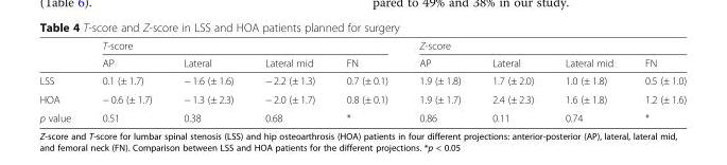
<table><thead><tr><td rowspan="2"></td><td colspan="4">T-score</td><td colspan="4">Z-score</td></tr><tr><td>AP</td><td>Lateral</td><td>Lateral mid</td><td>FN</td><td>AP</td><td>Lateral</td><td>Lateral mid</td><td>FN</td></tr></thead><tbody><tr><td>LSS</td><td>0.1 (± 1.7)</td><td>− 1.6 (± 1.6)</td><td>− 2.2 (± 1.3)</td><td>0.7 (± 0.1)</td><td>1.9 (± 1.8)</td><td>1.7 (± 2.0)</td><td>1.0 (± 1.8)</td><td>0.5 (± 1.0)</td></tr><tr><td>HOA</td><td>− 0.6 (± 1.7)</td><td>− 1.3 (± 2.3)</td><td>− 2.0 (± 1.7)</td><td>0.8 (± 0.1)</td><td>1.9 (± 1.7)</td><td>2.4 (± 2.3)</td><td>1.6 (± 1.8)</td><td>1.2 (± 1.6)</td></tr><tr><td>p value</td><td>0.51</td><td>0.38</td><td>0.68</td><td>*</td><td>0.86</td><td>0.11</td><td>0.74</td><td>*</td></tr></tbody></table>